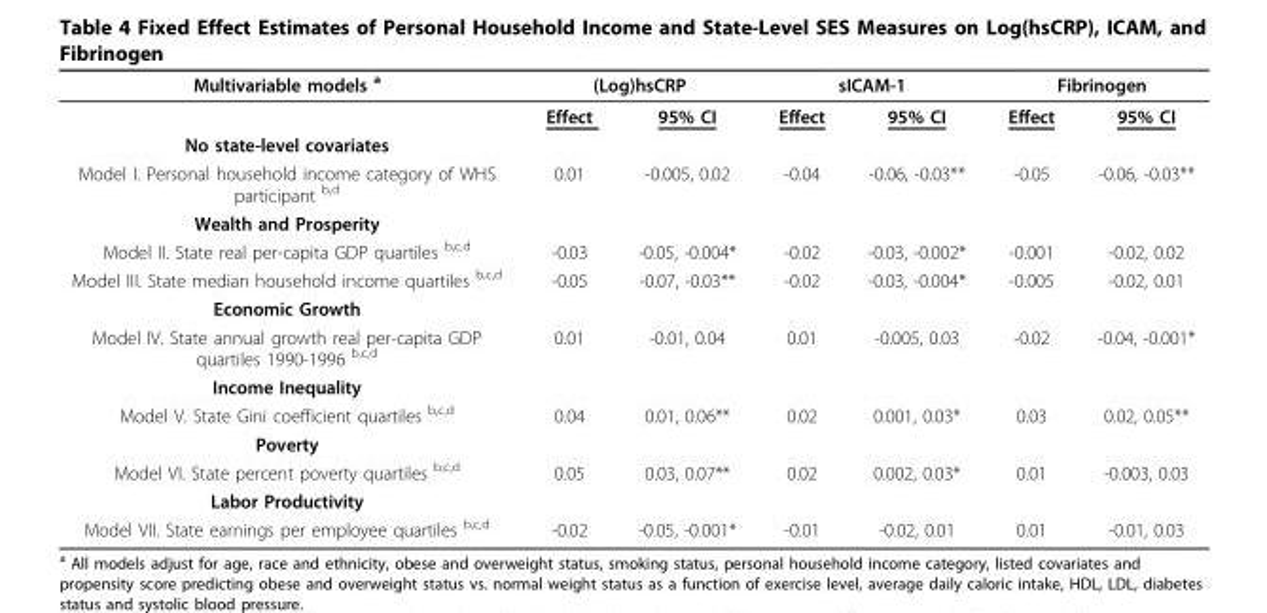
<table><thead><tr><td rowspan="2">Multivariable models <sup>a</sup></td><td colspan="2">(Log)hsCRP</td><td colspan="2">sICAM-1</td><td colspan="2">Fibrinogen</td></tr><tr><td>Effect</td><td>95% CI</td><td>Effect</td><td>95% CI</td><td>Effect</td><td>95% CI</td></tr></thead><tbody><tr><td colspan="7">No state-level covariates</td></tr><tr><td>Model I. Personal household income category of WHS participant <sup>b,d</sup></td><td>0.01</td><td>-0.005, 0.02</td><td>-0.04</td><td>-0.06, -0.03**</td><td>-0.05</td><td>-0.06, -0.03**</td></tr><tr><td colspan="7">Wealth and Prosperity</td></tr><tr><td>Model II. State real per-capita GDP quartiles <sup>b,c,d</sup></td><td>-0.03</td><td>-0.05, -0.004*</td><td>-0.02</td><td>-0.03, -0.002*</td><td>-0.001</td><td>-0.02, 0.02</td></tr><tr><td>Model III. State median household income quartiles <sup>b,c,d</sup></td><td>-0.05</td><td>-0.07, -0.03**</td><td>-0.02</td><td>-0.03, -0.004*</td><td>-0.005</td><td>-0.02, 0.01</td></tr><tr><td colspan="7">Economic Growth</td></tr><tr><td>Model IV. State annual growth real per-capita GDP quartiles 1990-1996 <sup>b,c,d</sup></td><td>0.01</td><td>-0.01, 0.04</td><td>0.01</td><td>-0.005, 0.03</td><td>-0.02</td><td>-0.04, -0.001*</td></tr><tr><td colspan="7">Income Inequality</td></tr><tr><td>Model V. State Gini coefficient quartiles <sup>b,c,d</sup></td><td>0.04</td><td>0.01, 0.06**</td><td>0.02</td><td>0.001, 0.03*</td><td>0.03</td><td>0.02, 0.05**</td></tr><tr><td colspan="7">Poverty</td></tr><tr><td>Model VI. State percent poverty quartiles <sup>b,c,d</sup></td><td>0.05</td><td>0.03, 0.07**</td><td>0.02</td><td>0.002, 0.03*</td><td>0.01</td><td>-0.003, 0.03</td></tr><tr><td colspan="7">Labor Productivity</td></tr><tr><td>Model VII. State earnings per employee quartiles <sup>b,c,d</sup></td><td>-0.02</td><td>-0.05, -0.001*</td><td>-0.01</td><td>-0.02, 0.01</td><td>0.01</td><td>-0.01, 0.03</td></tr></tbody></table>